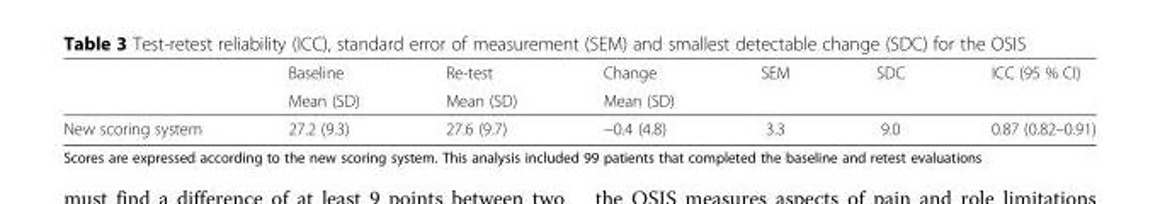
<table><thead><tr><td rowspan="2"></td><td rowspan="2">Baseline Mean (SD)</td><td rowspan="2">Re-test Mean (SD)</td><td rowspan="2">Change Mean (SD)</td><td rowspan="2">SEM</td><td rowspan="2">SDC</td><td rowspan="2">ICC (95 % CI)</td></tr><tr></tr></thead><tbody><tr><td>New scoring system</td><td>27.2 (9.3)</td><td>27.6 (9.7)</td><td>−0.4 (4.8)</td><td>3.3</td><td>9.0</td><td>0.87 (0.82–0.91)</td></tr></tbody></table>